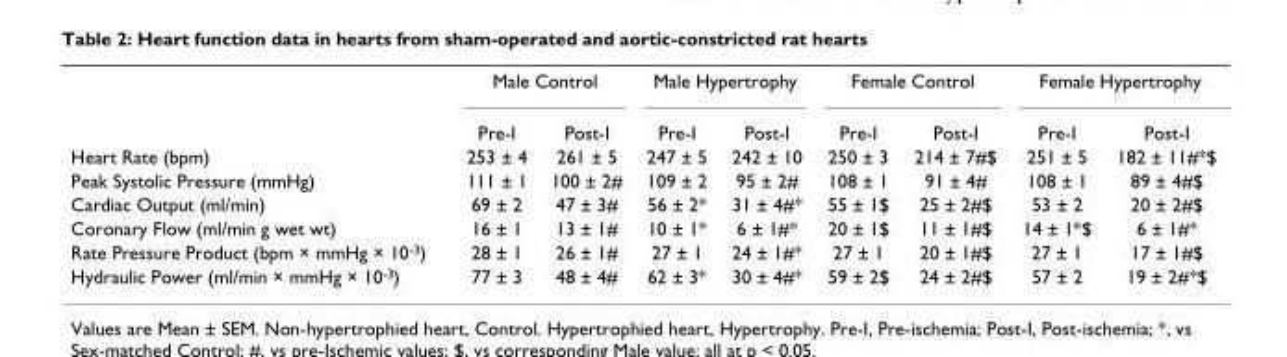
<table><thead><tr><td rowspan="2"></td><td colspan="2">Male Control</td><td colspan="2">Male Hypertrophy</td><td colspan="2">Female Control</td><td colspan="2">Female Hypertrophy</td></tr><tr><td>Pre-I</td><td>Post-I</td><td>Pre-I</td><td>Post-I</td><td>Pre-I</td><td>Post-I</td><td>Pre-I</td><td>Post-I</td></tr></thead><tbody><tr><td>Heart Rate (bpm)</td><td>253 ± 4</td><td>261 ± 5</td><td>247 ± 5</td><td>242 ± 10</td><td>250 ± 3</td><td>214 ± 7#$</td><td>251 ± 5</td><td>182 ± 11#*$</td></tr><tr><td>Peak Systolic Pressure (mmHg)</td><td>111 ± 1</td><td>100 ± 2#</td><td>109 ± 2</td><td>95 ± 2#</td><td>108 ± 1</td><td>91 ± 4#</td><td>108 ± 1</td><td>89 ± 4#$</td></tr><tr><td>Cardiac Output (ml/min)</td><td>69 ± 2</td><td>47 ± 3#</td><td>56 ± 2*</td><td>31 ± 4#*</td><td>55 ± 1$</td><td>25 ± 2#$</td><td>53 ± 2</td><td>20 ± 2#$</td></tr><tr><td>Coronary Flow (ml/min g wet wt)</td><td>16 ± 1</td><td>13 ± 1#</td><td>10 ± 1*</td><td>6 ± 1#*</td><td>20 ± 1$</td><td>11 ± 1#$</td><td>14 ± 1*$</td><td>6 ± 1#*</td></tr><tr><td>Rate Pressure Product (bpm × mmHg × 10<sup>-3</sup>)</td><td>28 ± 1</td><td>26 ± 1#</td><td>27 ± 1</td><td>24 ± 1#*</td><td>27 ± 1</td><td>20 ± 1#$</td><td>27 ± 1</td><td>17 ± 1#$</td></tr><tr><td>Hydraulic Power (ml/min × mmHg × 10<sup>-3</sup>)</td><td>77 ± 3</td><td>48 ± 4#</td><td>62 ± 3*</td><td>30 ± 4#*</td><td>59 ± 2$</td><td>24 ± 2#$</td><td>57 ± 2</td><td>19 ± 2#*$</td></tr></tbody></table>